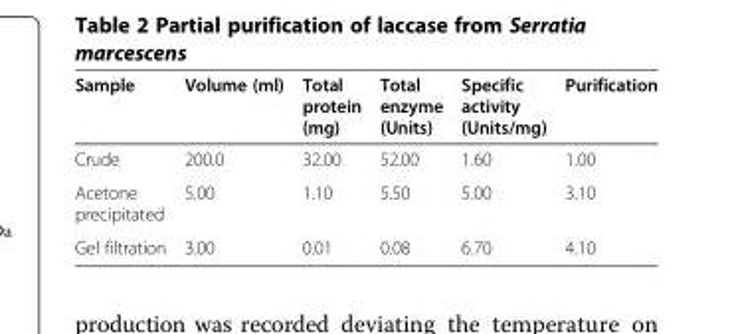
<table><thead><tr><td>Sample</td><td>Volume (ml)</td><td>Total protein (mg)</td><td>Total enzyme (Units)</td><td>Specific activity (Units/mg)</td><td>Purification</td></tr></thead><tbody><tr><td>Crude</td><td>200.0</td><td>32.00</td><td>52.00</td><td>1.60</td><td>1.00</td></tr><tr><td>Acetone precipitated</td><td>5.00</td><td>1.10</td><td>5.50</td><td>5.00</td><td>3.10</td></tr><tr><td>Gel filtration</td><td>3.00</td><td>0.01</td><td>0.08</td><td>6.70</td><td>4.10</td></tr></tbody></table>